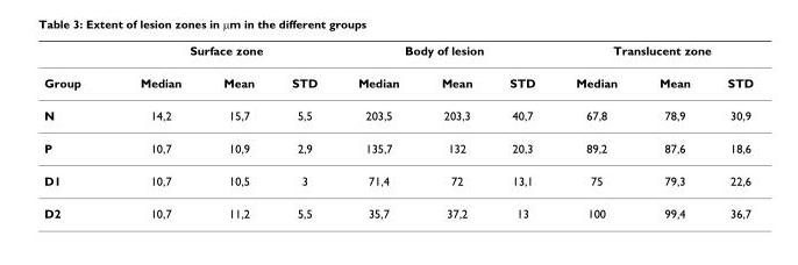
<table><thead><tr><td rowspan="2">Group</td><td colspan="3">Surface zone</td><td colspan="3">Body of lesion</td><td colspan="3">Translucent zone</td></tr><tr><td>Median</td><td>Mean</td><td>STD</td><td>Median</td><td>Mean</td><td>STD</td><td>Median</td><td>Mean</td><td>STD</td></tr></thead><tbody><tr><td>N</td><td>14,2</td><td>15,7</td><td>5,5</td><td>203,5</td><td>203,3</td><td>40,7</td><td>67,8</td><td>78,9</td><td>30,9</td></tr><tr><td>P</td><td>10,7</td><td>10,9</td><td>2,9</td><td>135,7</td><td>132</td><td>20,3</td><td>89,2</td><td>87,6</td><td>18,6</td></tr><tr><td>D1</td><td>10,7</td><td>10,5</td><td>3</td><td>71,4</td><td>72</td><td>13,1</td><td>75</td><td>79,3</td><td>22,6</td></tr><tr><td>D2</td><td>10,7</td><td>11,2</td><td>5,5</td><td>35,7</td><td>37,2</td><td>13</td><td>100</td><td>99,4</td><td>36,7</td></tr></tbody></table>